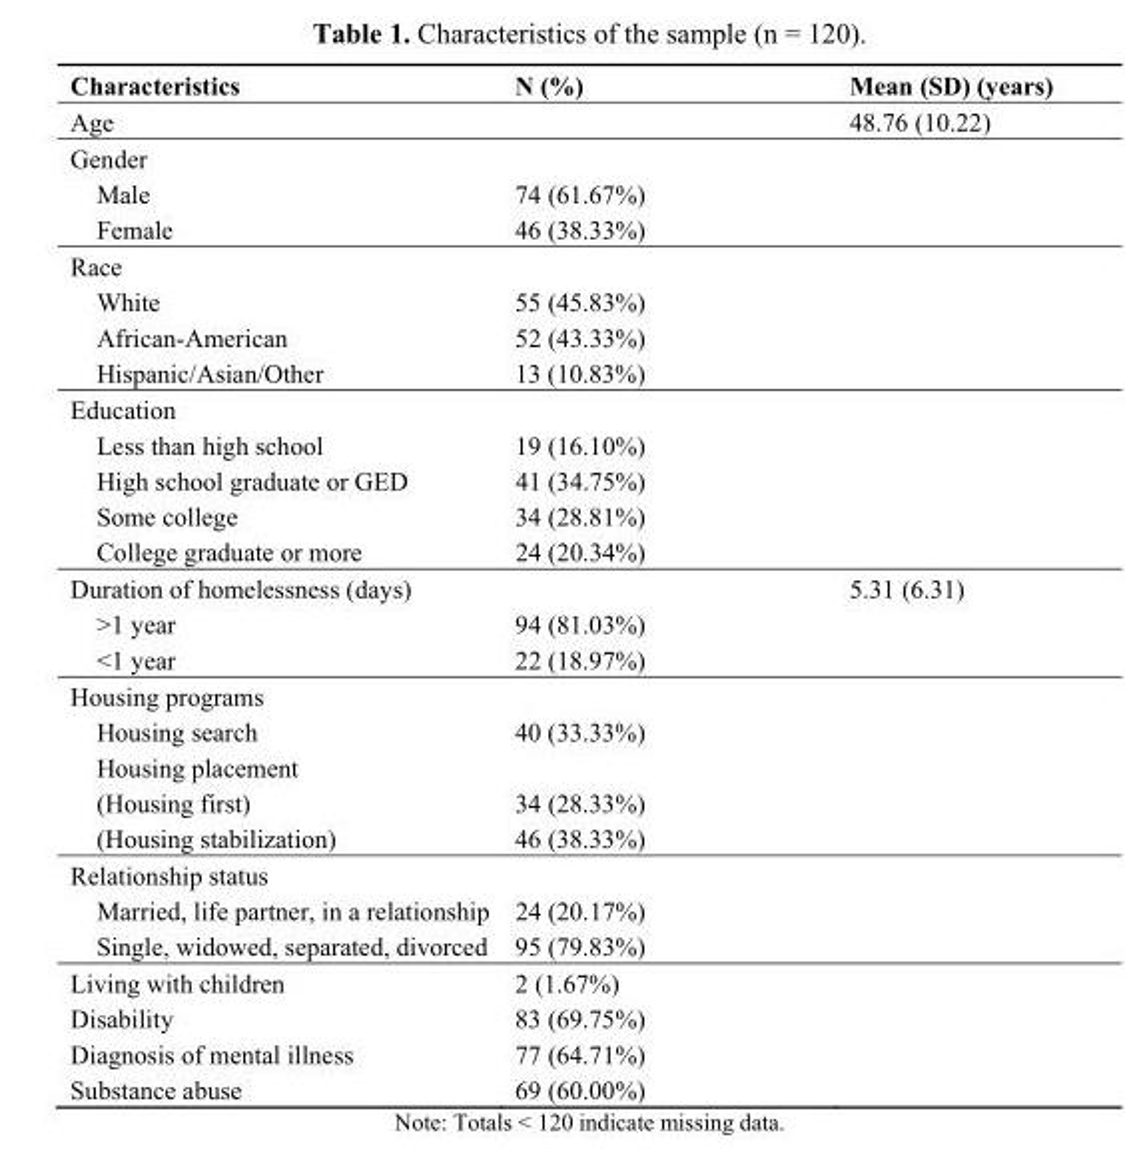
<table><thead><tr><td>Characteristics</td><td>N (%)</td><td>Mean (SD) (years)</td></tr></thead><tbody><tr><td>Age</td><td></td><td>48.76 (10.22)</td></tr><tr><td colspan="3">Gender</td></tr><tr><td>Male</td><td>74 (61.67%)</td><td></td></tr><tr><td>Female</td><td>46 (38.33%)</td><td></td></tr><tr><td colspan="3">Race</td></tr><tr><td>White</td><td>55 (45.83%)</td><td></td></tr><tr><td>African-American</td><td>52 (43.33%)</td><td></td></tr><tr><td>Hispanic/Asian/Other</td><td>13 (10.83%)</td><td></td></tr><tr><td colspan="3">Education</td></tr><tr><td>Less than high school</td><td>19 (16.10%)</td><td></td></tr><tr><td>High school graduate or GED</td><td>41 (34.75%)</td><td></td></tr><tr><td>Some college</td><td>34 (28.81%)</td><td></td></tr><tr><td>College graduate or more</td><td>24 (20.34%)</td><td></td></tr><tr><td>Duration of homelessness (days)</td><td></td><td>5.31 (6.31)</td></tr><tr><td>&gt;1 year</td><td>94 (81.03%)</td><td></td></tr><tr><td>&lt;1 year</td><td>22 (18.97%)</td><td></td></tr><tr><td colspan="3">Housing programs</td></tr><tr><td>Housing search</td><td>40 (33.33%)</td><td></td></tr><tr><td colspan="3">Housing placement</td></tr><tr><td>(Housing first)</td><td>34 (28.33%)</td><td></td></tr><tr><td>(Housing stabilization)</td><td>46 (38.33%)</td><td></td></tr><tr><td colspan="3">Relationship status</td></tr><tr><td>Married, life partner, in a relationship</td><td>24 (20.17%)</td><td></td></tr><tr><td>Single, widowed, separated, divorced</td><td>95 (79.83%)</td><td></td></tr><tr><td>Living with children</td><td>2 (1.67%)</td><td></td></tr><tr><td>Disability</td><td>83 (69.75%)</td><td></td></tr><tr><td>Diagnosis of mental illness</td><td>77 (64.71%)</td><td></td></tr><tr><td>Substance abuse</td><td>69 (60.00%)</td><td></td></tr></tbody></table>